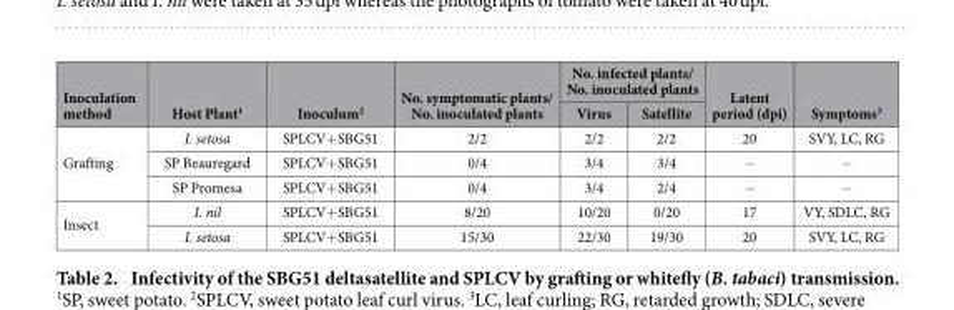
<table><thead><tr><td rowspan="2">Inoculation method</td><td rowspan="2">Host Plant<sup>1</sup></td><td rowspan="2">Inoculum<sup>2</sup></td><td rowspan="2">No. symptomatic plants/ No. inoculated plants</td><td colspan="2">No. infected plants/ No. inoculated plants</td><td rowspan="2">Latent period (dpi)</td><td rowspan="2">Symptoms<sup>3</sup></td></tr><tr><td>Virus</td><td>Satellite</td></tr></thead><tbody><tr><td rowspan="3">Grafting</td><td>I. setosa</td><td>SPLCV+ SBG51</td><td>2/2</td><td>2/2</td><td>2/2</td><td>20</td><td>SVY, LC, RG</td></tr><tr><td>SP Beauregard</td><td>SPLCV+ SBG51</td><td>0/4</td><td>3/4</td><td>3/4</td><td>−</td><td>−</td></tr><tr><td>SP Promesa</td><td>SPLCV+ SBG51</td><td>0/4</td><td>3/4</td><td>2/4</td><td>−</td><td>−</td></tr><tr><td rowspan="2">Insect</td><td>I. nil</td><td>SPLCV+ SBG51</td><td>8/20</td><td>10/20</td><td>0/20</td><td>17</td><td>VY, SDLC, RG</td></tr><tr><td>I. setosa</td><td>SPLCV+ SBG51</td><td>15/30</td><td>22/30</td><td>19/30</td><td>20</td><td>SVY, LC, RG</td></tr></tbody></table>